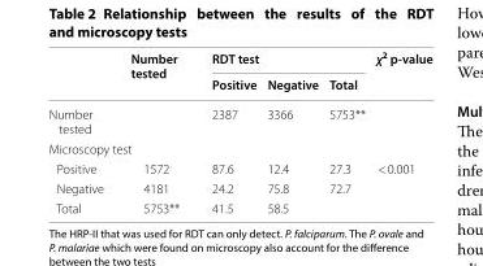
<table><thead><tr><td rowspan="2"></td><td rowspan="2">Number tested</td><td colspan="3">RDT test</td><td rowspan="2">χ<sup>2</sup> p-value</td></tr><tr><td>Positive</td><td>Negative</td><td>Total</td></tr></thead><tbody><tr><td>Number tested</td><td></td><td>2387</td><td>3366</td><td>5753**</td><td></td></tr><tr><td colspan="6">Microscopy test</td></tr><tr><td>Positive</td><td>1572</td><td>87.6</td><td>12.4</td><td>27.3</td><td>&lt; 0.001</td></tr><tr><td>Negative</td><td>4181</td><td>24.2</td><td>75.8</td><td>72.7</td><td></td></tr><tr><td>Total</td><td>5753**</td><td>41.5</td><td>58.5</td><td></td><td></td></tr></tbody></table>